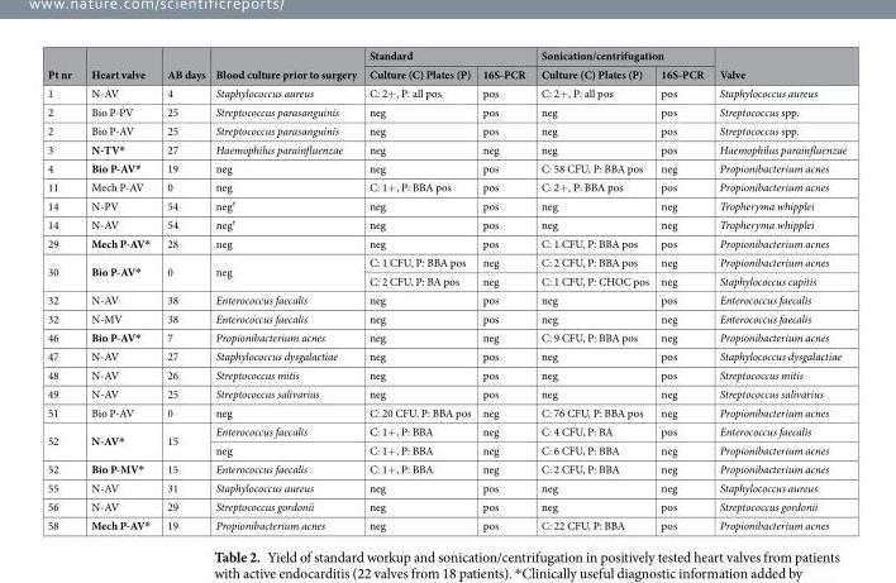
<table><thead><tr><td rowspan="2">Pt nr</td><td rowspan="2">Heart valve</td><td rowspan="2">AB days</td><td rowspan="2">Blood culture prior to surgery</td><td colspan="2">Standard</td><td colspan="2">Sonication/centrifugation</td><td rowspan="2">Valve</td></tr><tr><td>Culture (C) Plates (P)</td><td>16S-PCR</td><td>Culture (C) Plates (P)</td><td>16S-PCR</td></tr></thead><tbody><tr><td>1</td><td>N-AV</td><td>4</td><td>Staphylococcus aureus</td><td>C: 2+, P: all pos</td><td>pos</td><td>C: 2+, P: all pos</td><td>pos</td><td>Staphylococcus aureus</td></tr><tr><td>2</td><td>Bio P-PV</td><td>25</td><td>Streptococcus parasanguinis</td><td>neg</td><td>pos</td><td>neg</td><td>pos</td><td>Streptococcus spp.</td></tr><tr><td>2</td><td>Bio P-AV</td><td>25</td><td>Streptococcus parasanguinis</td><td>neg</td><td>pos</td><td>neg</td><td>pos</td><td>Streptococcus spp.</td></tr><tr><td>3</td><td>N-TV*</td><td>27</td><td>Haemophilus parainfluenzae</td><td>neg</td><td>neg</td><td>neg</td><td>pos</td><td>Haemophilus parainfluenzae</td></tr><tr><td>4</td><td>Bio P-AV*</td><td>19</td><td>neg</td><td>neg</td><td>pos</td><td>C: 58 CFU, P: BBA pos</td><td>neg</td><td>Propionibacterium acnes</td></tr><tr><td>11</td><td>Mech P-AV</td><td>0</td><td>neg</td><td>C: 1+, P: BBA pos</td><td>pos</td><td>C: 2+, P: BBA pos</td><td>pos</td><td>Propionibacterium acnes</td></tr><tr><td>14</td><td>N-PV</td><td>54</td><td>neg<sup>†</sup></td><td>neg</td><td>pos</td><td>neg</td><td>neg</td><td>Tropheryma whipplei</td></tr><tr><td>14</td><td>N-AV</td><td>54</td><td>neg<sup>†</sup></td><td>neg</td><td>pos</td><td>neg</td><td>neg</td><td>Tropheryma whipplei</td></tr><tr><td>29</td><td>Mech P-AV*</td><td>28</td><td>neg</td><td>neg</td><td>pos</td><td>C: 1 CFU, P: BBA pos</td><td>pos</td><td>Propionibacterium acnes</td></tr><tr><td rowspan="2">30</td><td rowspan="2">Bio P-AV*</td><td rowspan="2">0</td><td rowspan="2">neg</td><td>C: 1 CFU, P: BBA pos</td><td>neg</td><td>C: 2 CFU, P: BBA pos</td><td>neg</td><td>Propionibacterium acnes</td></tr><tr><td>C: 2 CFU, P: BA pos</td><td>neg</td><td>C: 1 CFU, P: CHOC pos</td><td>neg</td><td>Staphylococcus capitis</td></tr><tr><td>32</td><td>N-AV</td><td>38</td><td>Enterococcus faecalis</td><td>neg</td><td>pos</td><td>neg</td><td>pos</td><td>Enterococcus faecalis</td></tr><tr><td>32</td><td>N-MV</td><td>38</td><td>Enterococcus faecalis</td><td>neg</td><td>pos</td><td>neg</td><td>neg</td><td>Enterococcus faecalis</td></tr><tr><td>46</td><td>Bio P-AV*</td><td>7</td><td>Propionibacterium acnes</td><td>neg</td><td>neg</td><td>C: 9 CFU, P: BBA pos</td><td>neg</td><td>Propionibacterium acnes</td></tr><tr><td>47</td><td>N-AV</td><td>27</td><td>Staphylococcus dysgalactiae</td><td>neg</td><td>pos</td><td>neg</td><td>pos</td><td>Staphylococcus dysgalactiae</td></tr><tr><td>48</td><td>N-AV</td><td>26</td><td>Streptococcus mitis</td><td>neg</td><td>pos</td><td>neg</td><td>pos</td><td>Streptococcus mitis</td></tr><tr><td>49</td><td>N-AV</td><td>25</td><td>Streptococcus salivarius</td><td>neg</td><td>pos</td><td>neg</td><td>neg</td><td>Streptococcus salivarius</td></tr><tr><td>51</td><td>Bio P-AV</td><td>0</td><td>neg</td><td>C: 20 CFU, P: BBA pos</td><td>neg</td><td>C: 76 CFU, P: BBA pos</td><td>neg</td><td>Propionibacterium acnes</td></tr><tr><td rowspan="2">52</td><td rowspan="2">N-AV*</td><td rowspan="2">15</td><td>Enterococcus faecalis</td><td>C: 1+, P: BBA</td><td>neg</td><td>C: 4 CFU, P: BA</td><td>pos</td><td>Enterococcus faecalis</td></tr><tr><td>neg</td><td>C: 1+, P: BBA</td><td>neg</td><td>C: 6 CFU, P: BBA</td><td>neg</td><td>Propionibacterium acnes</td></tr><tr><td>52</td><td>Bio P-MV*</td><td>15</td><td>Enterococcus faecalis</td><td>C: 1+, P: BBA</td><td>neg</td><td>C: 2 CFU, P: BBA</td><td>neg</td><td>Propionibacterium acnes</td></tr><tr><td>55</td><td>N-AV</td><td>31</td><td>Staphylococcus aureus</td><td>neg</td><td>pos</td><td>neg</td><td>neg</td><td>Staphylococcus aureus</td></tr><tr><td>56</td><td>N-AV</td><td>29</td><td>Streptococcus gordonii</td><td>neg</td><td>pos</td><td>neg</td><td>pos</td><td>Streptococcus gordonii</td></tr><tr><td>58</td><td>Mech P-AV*</td><td>19</td><td>Propionibacterium acnes</td><td>neg</td><td>pos</td><td>C: 22 CFU, P: BBA</td><td>pos</td><td>Propionibacterium acnes</td></tr></tbody></table>